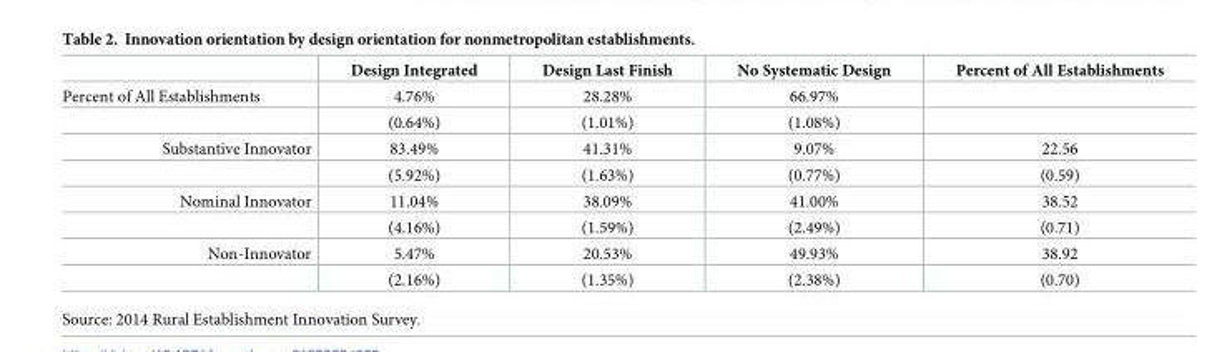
<table><thead><tr><td></td><td>Design Integrated</td><td>Design Last Finish</td><td>No Systematic Design</td><td>Percent of All Establishments</td></tr></thead><tbody><tr><td rowspan="2">Percent of All Establishments</td><td>4.76%</td><td>28.28%</td><td>66.97%</td><td></td></tr><tr><td>(0.64%)</td><td>(1.01%)</td><td>(1.08%)</td><td></td></tr><tr><td rowspan="2">Substantive Innovator</td><td>83.49%</td><td>41.31%</td><td>9.07%</td><td>22.56</td></tr><tr><td>(5.92%)</td><td>(1.63%)</td><td>(0.77%)</td><td>(0.59)</td></tr><tr><td rowspan="2">Nominal Innovator</td><td>11.04%</td><td>38.09%</td><td>41.00%</td><td>38.52</td></tr><tr><td>(4.16%)</td><td>(1.59%)</td><td>(2.49%)</td><td>(0.71)</td></tr><tr><td rowspan="2">Non-Innovator</td><td>5.47%</td><td>20.53%</td><td>49.93%</td><td>38.92</td></tr><tr><td>(2.16%)</td><td>(1.35%)</td><td>(2.38%)</td><td>(0.70)</td></tr></tbody></table>